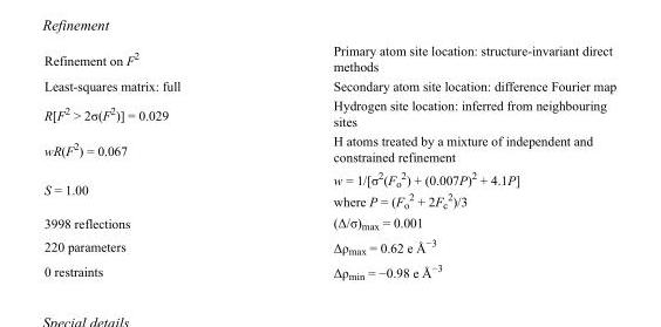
<table><tbody><tr><td>Refinement on F<sup>2</sup></td><td>Primary atom site location: structure-invariant direct methods</td></tr><tr><td>Least-squares matrix: full</td><td>Secondary atom site location: difference Fourier map</td></tr><tr><td>R[F<sup>2</sup> &gt; 2σ(F<sup>2</sup>)] = 0.029</td><td>Hydrogen site location: inferred from neighbouring sites</td></tr><tr><td>wR(F<sup>2</sup>) = 0.067</td><td>H atoms treated by a mixture of independent and constrained refinement</td></tr><tr><td>S = 1.00</td><td>w = 1/[σ<sup>2</sup>(F<sub>o</sub> <sup>2</sup>) + (0.007P)<sup>2</sup> + 4.1P] where P = (F<sub>o</sub> <sup>2</sup> + 2F<sub>c</sub> <sup>2</sup>)/3</td></tr><tr><td>3998 reflections</td><td>(Δ/σ)<sub>max</sub> = 0.001</td></tr><tr><td>220 parameters</td><td>Δρ<sub>max</sub> = 0.62 e Å<sup>−3</sup></td></tr><tr><td>0 restraints</td><td>Δρ<sub>min</sub> = −0.98 e Å<sup>−3</sup></td></tr></tbody></table>